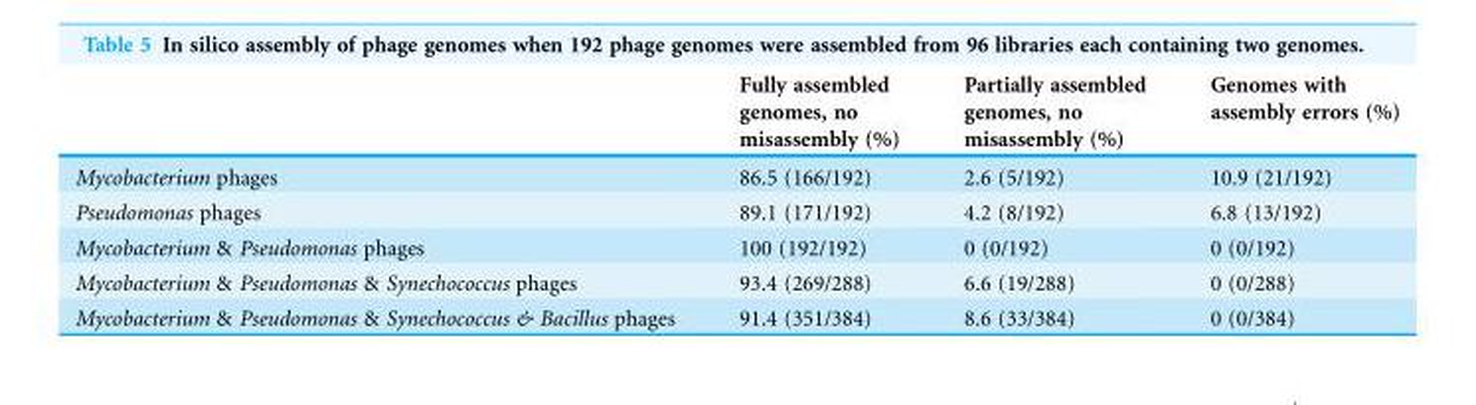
<table><thead><tr><td></td><td>Fully assembled genomes, no misassembly (%)</td><td>Partially assembled genomes, no misassembly (%)</td><td>Genomes with assembly errors (%)</td></tr></thead><tbody><tr><td>Mycobacterium phages</td><td>86.5 (166/192)</td><td>2.6 (5/192)</td><td>10.9 (21/192)</td></tr><tr><td>Pseudomonas phages</td><td>89.1 (171/192)</td><td>4.2 (8/192)</td><td>6.8 (13/192)</td></tr><tr><td>Mycobacterium &amp; Pseudomonas phages</td><td>100 (192/192)</td><td>0 (0/192)</td><td>0 (0/192)</td></tr><tr><td>Mycobacterium &amp; Pseudomonas &amp; Synechococcus phages</td><td>93.4 (269/288)</td><td>6.6 (19/288)</td><td>0 (0/288)</td></tr><tr><td>Mycobacterium &amp; Pseudomonas &amp; Synechococcus &amp; Bacillus phages</td><td>91.4 (351/384)</td><td>8.6 (33/384)</td><td>0 (0/384)</td></tr></tbody></table>